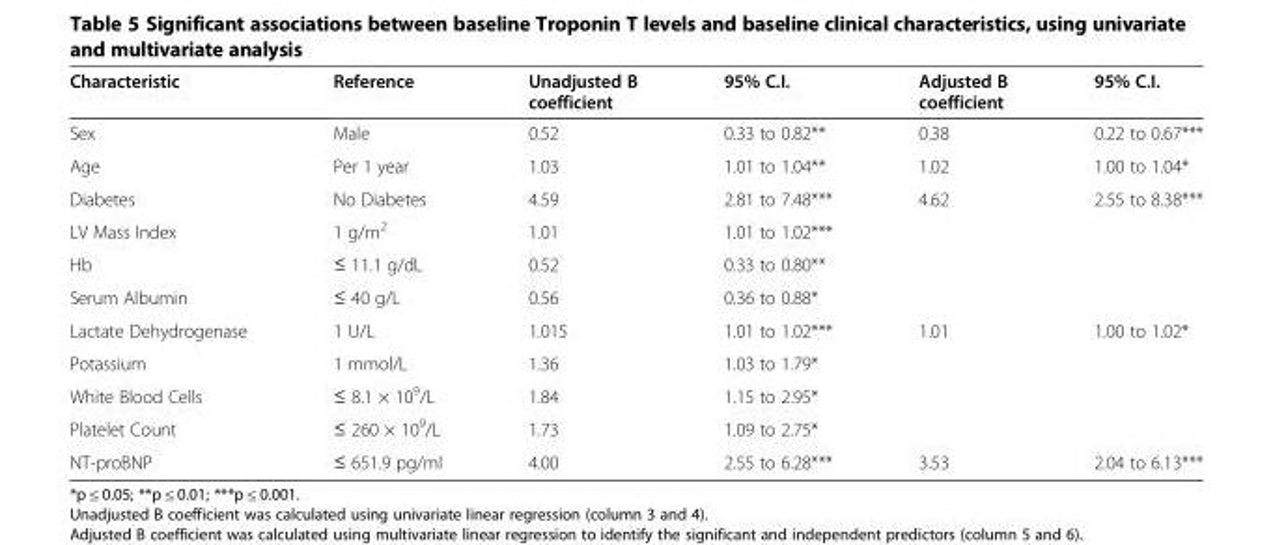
<table><thead><tr><td>Characteristic</td><td>Reference</td><td>Unadjusted B coefficient</td><td>95% C.I.</td><td>Adjusted B coefficient</td><td>95% C.I.</td></tr></thead><tbody><tr><td>Sex</td><td>Male</td><td>0.52</td><td>0.33 to 0.82**</td><td>0.38</td><td>0.22 to 0.67***</td></tr><tr><td>Age</td><td>Per 1 year</td><td>1.03</td><td>1.01 to 1.04**</td><td>1.02</td><td>1.00 to 1.04*</td></tr><tr><td>Diabetes</td><td>No Diabetes</td><td>4.59</td><td>2.81 to 7.48***</td><td>4.62</td><td>2.55 to 8.38***</td></tr><tr><td>LV Mass Index</td><td>1 g/m<sup>2</sup></td><td>1.01</td><td>1.01 to 1.02***</td><td></td><td></td></tr><tr><td>Hb</td><td>≤ 11.1 g/dL</td><td>0.52</td><td>0.33 to 0.80**</td><td></td><td></td></tr><tr><td>Serum Albumin</td><td>≤ 40 g/L</td><td>0.56</td><td>0.36 to 0.88*</td><td></td><td></td></tr><tr><td>Lactate Dehydrogenase</td><td>1 U/L</td><td>1.015</td><td>1.01 to 1.02***</td><td>1.01</td><td>1.00 to 1.02*</td></tr><tr><td>Potassium</td><td>1 mmol/L</td><td>1.36</td><td>1.03 to 1.79*</td><td></td><td></td></tr><tr><td>White Blood Cells</td><td>≤ 8.1 × 10<sup>9</sup>/L</td><td>1.84</td><td>1.15 to 2.95*</td><td></td><td></td></tr><tr><td>Platelet Count</td><td>≤ 260 × 10<sup>9</sup>/L</td><td>1.73</td><td>1.09 to 2.75*</td><td></td><td></td></tr><tr><td>NT-proBNP</td><td>≤ 651.9 pg/ml</td><td>4.00</td><td>2.55 to 6.28***</td><td>3.53</td><td>2.04 to 6.13***</td></tr></tbody></table>